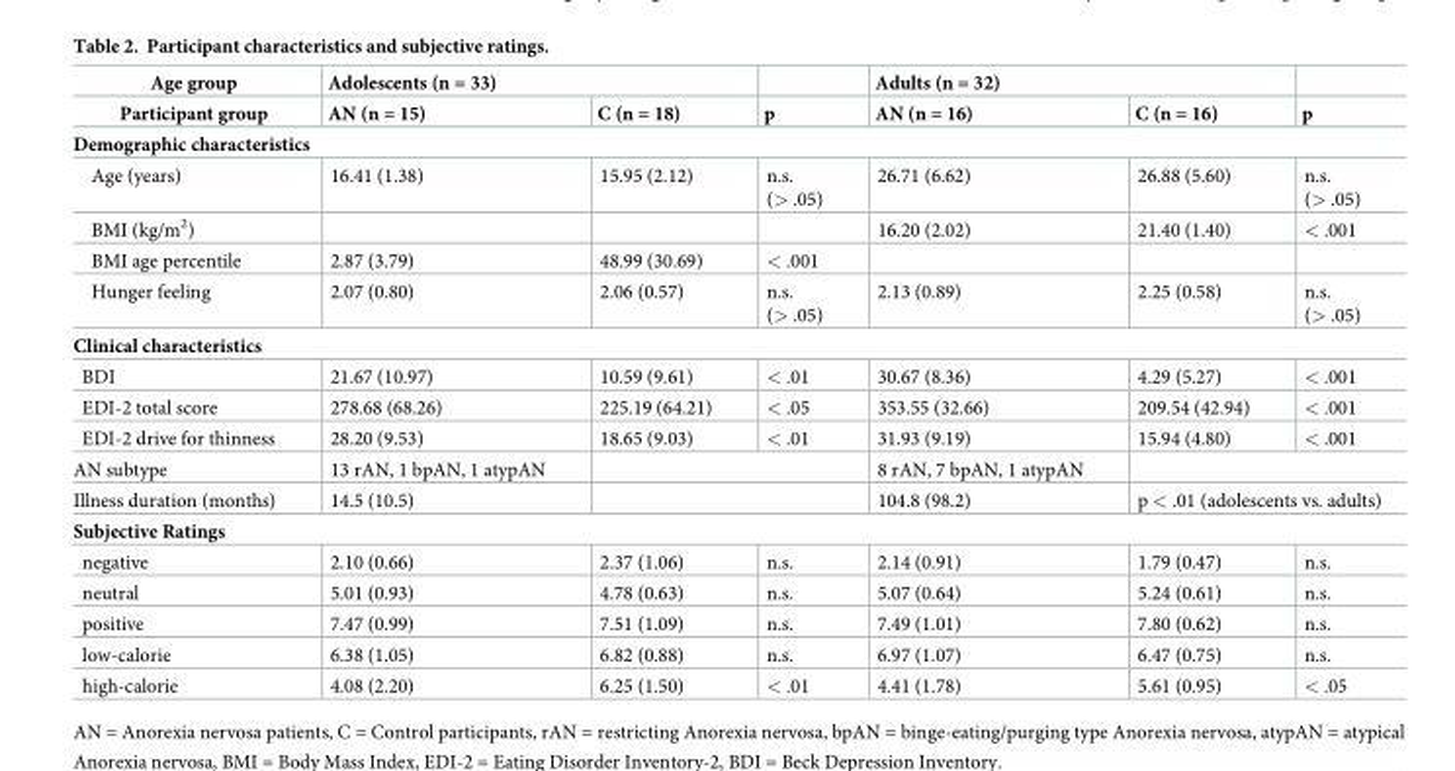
<table><thead><tr><td rowspan="2">Age group Participant group</td><td colspan="2">Adolescents (n = 33)</td><td rowspan="2">p</td><td colspan="2">Adults (n = 32)</td><td rowspan="2">p</td></tr><tr><td>AN (n = 15)</td><td>C (n = 18)</td><td>AN (n = 16)</td><td>C (n = 16)</td></tr></thead><tbody><tr><td colspan="7">Demographic characteristics</td></tr><tr><td>Age (years)</td><td>16.41 (1.38)</td><td>15.95 (2.12)</td><td>n.s. (&gt; .05)</td><td>26.71 (6.62)</td><td>26.88 (5.60)</td><td>n.s. (&gt; .05)</td></tr><tr><td>BMI (kg/m<sup>2</sup>)</td><td></td><td></td><td></td><td>16.20 (2.02)</td><td>21.40 (1.40)</td><td>&lt; .001</td></tr><tr><td>BMI age percentile</td><td>2.87 (3.79)</td><td>48.99 (30.69)</td><td>&lt; .001</td><td></td><td></td><td></td></tr><tr><td>Hunger feeling</td><td>2.07 (0.80)</td><td>2.06 (0.57)</td><td>n.s. (&gt; .05)</td><td>2.13 (0.89)</td><td>2.25 (0.58)</td><td>n.s. (&gt; .05)</td></tr><tr><td colspan="7">Clinical characteristics</td></tr><tr><td>BDI</td><td>21.67 (10.97)</td><td>10.59 (9.61)</td><td>&lt; .01</td><td>30.67 (8.36)</td><td>4.29 (5.27)</td><td>&lt; .001</td></tr><tr><td>EDI-2 total score</td><td>278.68 (68.26)</td><td>225.19 (64.21)</td><td>&lt; .05</td><td>353.55 (32.66)</td><td>209.54 (42.94)</td><td>&lt; .001</td></tr><tr><td>EDI-2 drive for thinness</td><td>28.20 (9.53)</td><td>18.65 (9.03)</td><td>&lt; .01</td><td>31.93 (9.19)</td><td>15.94 (4.80)</td><td>&lt; .001</td></tr><tr><td>AN subtype</td><td>13 rAN, 1 bpAN, 1 atypAN</td><td colspan="2"></td><td>8 rAN, 7 bpAN, 1 atypAN</td><td colspan="2"></td></tr><tr><td>Illness duration (months)</td><td>14.5 (10.5)</td><td colspan="2"></td><td>104.8 (98.2)</td><td colspan="2">p &lt; .01 (adolescents vs. adults)</td></tr><tr><td colspan="7">Subjective Ratings</td></tr><tr><td>negative</td><td>2.10 (0.66)</td><td>2.37 (1.06)</td><td>n.s.</td><td>2.14 (0.91)</td><td>1.79 (0.47)</td><td>n.s.</td></tr><tr><td>neutral</td><td>5.01 (0.93)</td><td>4.78 (0.63)</td><td>n.s.</td><td>5.07 (0.64)</td><td>5.24 (0.61)</td><td>n.s.</td></tr><tr><td>positive</td><td>7.47 (0.99)</td><td>7.51 (1.09)</td><td>n.s.</td><td>7.49 (1.01)</td><td>7.80 (0.62)</td><td>n.s.</td></tr><tr><td>low-calorie</td><td>6.38 (1.05)</td><td>6.82 (0.88)</td><td>n.s.</td><td>6.97 (1.07)</td><td>6.47 (0.75)</td><td>n.s.</td></tr><tr><td>high-calorie</td><td>4.08 (2.20)</td><td>6.25 (1.50)</td><td>&lt; .01</td><td>4.41 (1.78)</td><td>5.61 (0.95)</td><td>&lt; .05</td></tr></tbody></table>